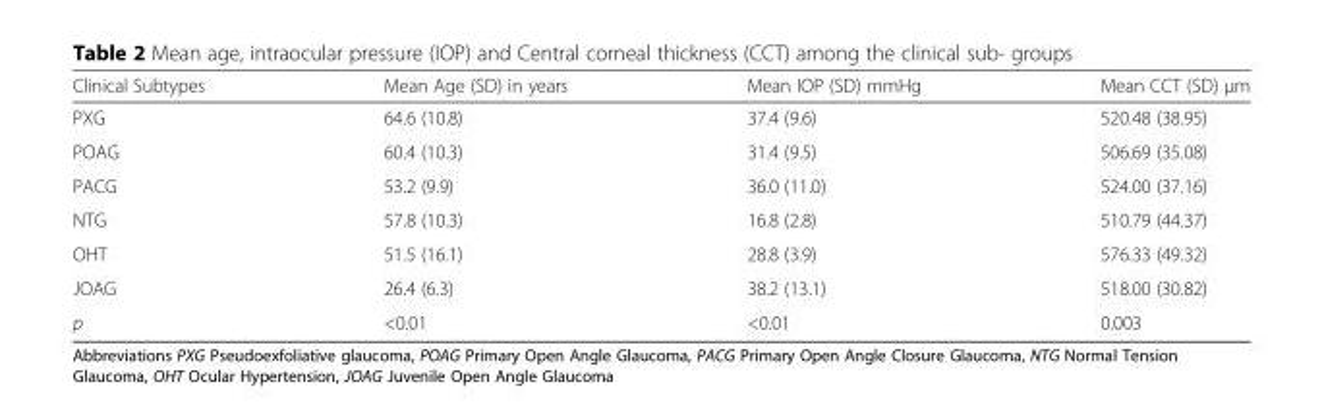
<table><thead><tr><td>Clinical Subtypes</td><td>Mean Age (SD) in years</td><td>Mean IOP (SD) mmHg</td><td>Mean CCT (SD) μm</td></tr></thead><tbody><tr><td>PXG</td><td>64.6 (10.8)</td><td>37.4 (9.6)</td><td>520.48 (38.95)</td></tr><tr><td>POAG</td><td>60.4 (10.3)</td><td>31.4 (9.5)</td><td>506.69 (35.08)</td></tr><tr><td>PACG</td><td>53.2 (9.9)</td><td>36.0 (11.0)</td><td>524.00 (37.16)</td></tr><tr><td>NTG</td><td>57.8 (10.3)</td><td>16.8 (2.8)</td><td>510.79 (44.37)</td></tr><tr><td>OHT</td><td>51.5 (16.1)</td><td>28.8 (3.9)</td><td>576.33 (49.32)</td></tr><tr><td>JOAG</td><td>26.4 (6.3)</td><td>38.2 (13.1)</td><td>518.00 (30.82)</td></tr><tr><td>p</td><td>&lt;0.01</td><td>&lt;0.01</td><td>0.003</td></tr></tbody></table>